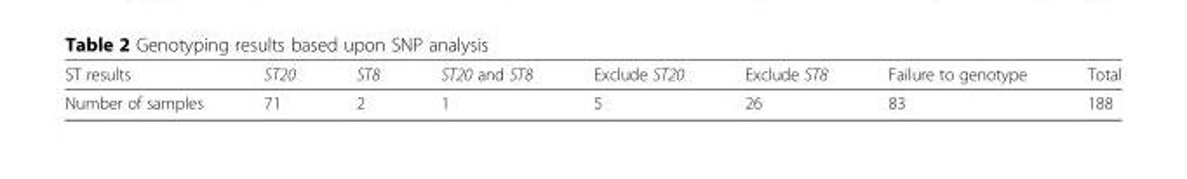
<table><thead><tr><td>ST results</td><td>ST20</td><td>ST8</td><td>ST20 and ST8</td><td>Exclude ST20</td><td>Exclude ST8</td><td>Failure to genotype</td><td>Total</td></tr></thead><tbody><tr><td>Number of samples</td><td>71</td><td>2</td><td>1</td><td>5</td><td>26</td><td>83</td><td>188</td></tr></tbody></table>